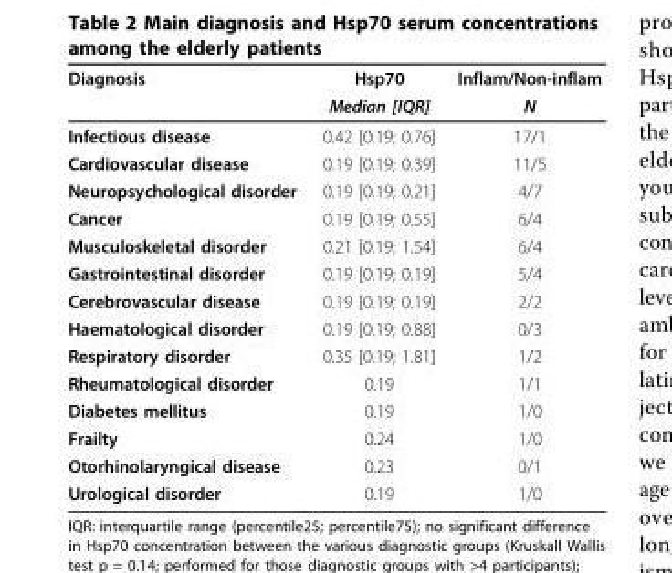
<table><thead><tr><td rowspan="2">Diagnosis</td><td rowspan="2">Hsp70 Median [IQR]</td><td rowspan="2">Inflam/Non-inflam N</td></tr><tr></tr></thead><tbody><tr><td>Infectious disease</td><td>0.42 [0.19; 0.76]</td><td>17/1</td></tr><tr><td>Cardiovascular disease</td><td>0.19 [0.19; 0.39]</td><td>11/5</td></tr><tr><td>Neuropsychological disorder</td><td>0.19 [0.19; 0.21]</td><td>4/7</td></tr><tr><td>Cancer</td><td>0.19 [0.19; 0.55]</td><td>6/4</td></tr><tr><td>Musculoskeletal disorder</td><td>0.21 [0.19; 1.54]</td><td>6/4</td></tr><tr><td>Gastrointestinal disorder</td><td>0.19 [0.19; 0.19]</td><td>5/4</td></tr><tr><td>Cerebrovascular disease</td><td>0.19 [0.19; 0.19]</td><td>2/2</td></tr><tr><td>Haematological disorder</td><td>0.19 [0.19; 0.88]</td><td>0/3</td></tr><tr><td>Respiratory disorder</td><td>0.35 [0.19; 1.81]</td><td>1/2</td></tr><tr><td>Rheumatological disorder</td><td>0.19</td><td>1/1</td></tr><tr><td>Diabetes mellitus</td><td>0.19</td><td>1/0</td></tr><tr><td>Frailty</td><td>0.24</td><td>1/0</td></tr><tr><td>Otorhinolaryngical disease</td><td>0.23</td><td>0/1</td></tr><tr><td>Urological disorder</td><td>0.19</td><td>1/0</td></tr></tbody></table>